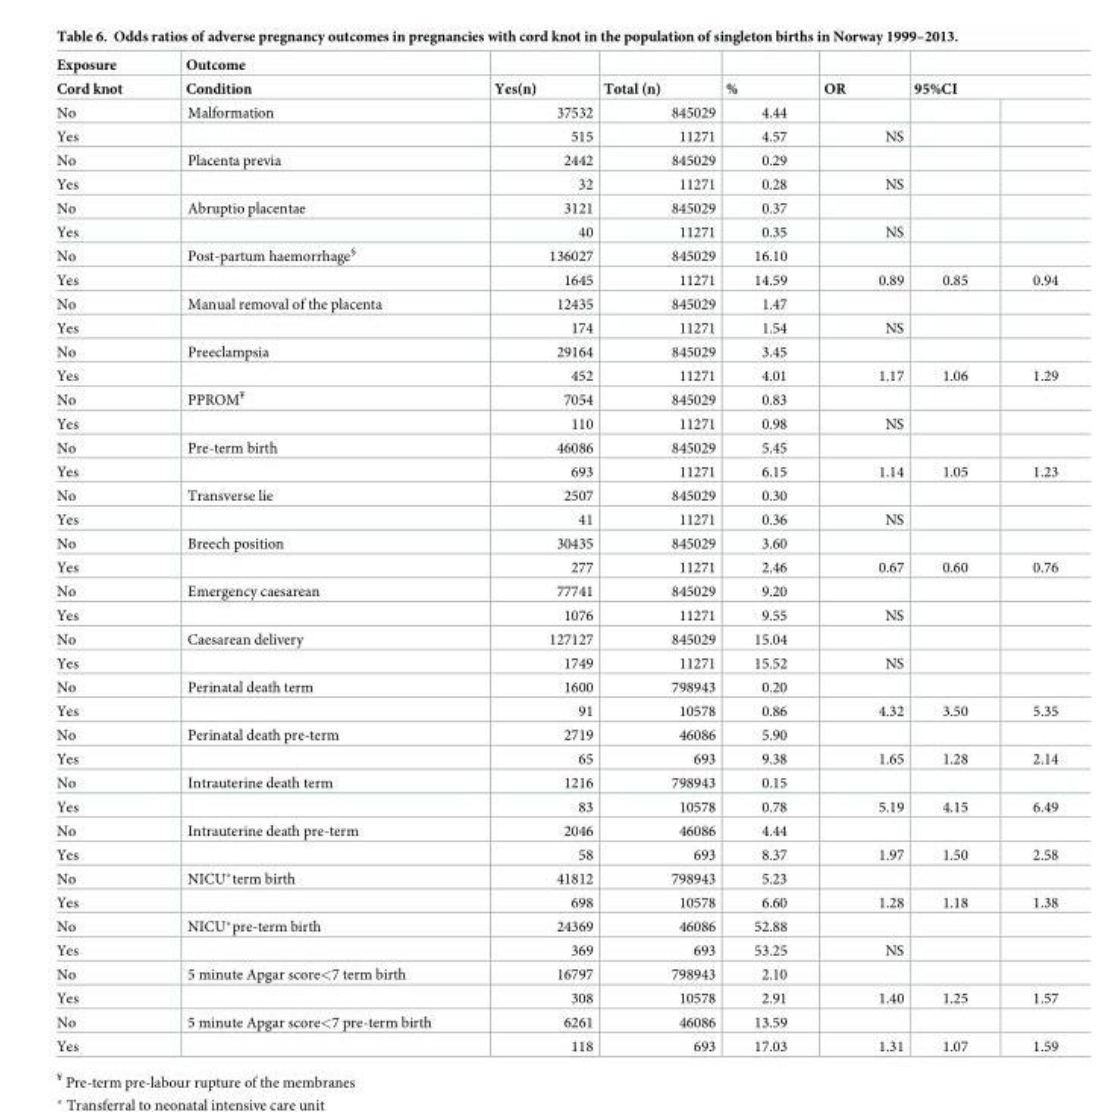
<table><thead><tr><td rowspan="2">Exposure Cord knot</td><td rowspan="2">Outcome Condition</td><td rowspan="2">Yes(n)</td><td rowspan="2">Total (n)</td><td rowspan="2">%</td><td rowspan="2">OR</td><td></td><td></td></tr><tr><td colspan="2">95%CI</td></tr></thead><tbody><tr><td>No</td><td>Malformation</td><td>37532</td><td>845029</td><td>4.44</td><td></td><td></td><td></td></tr><tr><td>Yes</td><td></td><td>515</td><td>11271</td><td>4.57</td><td>NS</td><td></td><td></td></tr><tr><td>No</td><td>Placenta previa</td><td>2442</td><td>845029</td><td>0.29</td><td></td><td></td><td></td></tr><tr><td>Yes</td><td></td><td>32</td><td>11271</td><td>0.28</td><td>NS</td><td></td><td></td></tr><tr><td>No</td><td>Abruptio placentae</td><td>3121</td><td>845029</td><td>0.37</td><td></td><td></td><td></td></tr><tr><td>Yes</td><td></td><td>40</td><td>11271</td><td>0.35</td><td>NS</td><td></td><td></td></tr><tr><td>No</td><td>Post-partum haemorrhage<sup>§</sup></td><td>136027</td><td>845029</td><td>16.10</td><td></td><td></td><td></td></tr><tr><td>Yes</td><td></td><td>1645</td><td>11271</td><td>14.59</td><td>0.89</td><td>0.85</td><td>0.94</td></tr><tr><td>No</td><td>Manual removal of the placenta</td><td>12435</td><td>845029</td><td>1.47</td><td></td><td></td><td></td></tr><tr><td>Yes</td><td></td><td>174</td><td>11271</td><td>1.54</td><td>NS</td><td></td><td></td></tr><tr><td>No</td><td>Preeclampsia</td><td>29164</td><td>845029</td><td>3.45</td><td></td><td></td><td></td></tr><tr><td>Yes</td><td></td><td>452</td><td>11271</td><td>4.01</td><td>1.17</td><td>1.06</td><td>1.29</td></tr><tr><td>No</td><td>PPROM<sup>¥</sup></td><td>7054</td><td>845029</td><td>0.83</td><td></td><td></td><td></td></tr><tr><td>Yes</td><td></td><td>110</td><td>11271</td><td>0.98</td><td>NS</td><td></td><td></td></tr><tr><td>No</td><td>Pre-term birth</td><td>46086</td><td>845029</td><td>5.45</td><td></td><td></td><td></td></tr><tr><td>Yes</td><td></td><td>693</td><td>11271</td><td>6.15</td><td>1.14</td><td>1.05</td><td>1.23</td></tr><tr><td>No</td><td>Transverse lie</td><td>2507</td><td>845029</td><td>0.30</td><td></td><td></td><td></td></tr><tr><td>Yes</td><td></td><td>41</td><td>11271</td><td>0.36</td><td>NS</td><td></td><td></td></tr><tr><td>No</td><td>Breech position</td><td>30435</td><td>845029</td><td>3.60</td><td></td><td></td><td></td></tr><tr><td>Yes</td><td></td><td>277</td><td>11271</td><td>2.46</td><td>0.67</td><td>0.60</td><td>0.76</td></tr><tr><td>No</td><td>Emergency caesarean</td><td>77741</td><td>845029</td><td>9.20</td><td></td><td></td><td></td></tr><tr><td>Yes</td><td></td><td>1076</td><td>11271</td><td>9.55</td><td>NS</td><td></td><td></td></tr><tr><td>No</td><td>Caesarean delivery</td><td>127127</td><td>845029</td><td>15.04</td><td></td><td></td><td></td></tr><tr><td>Yes</td><td></td><td>1749</td><td>11271</td><td>15.52</td><td>NS</td><td></td><td></td></tr><tr><td>No</td><td>Perinatal death term</td><td>1600</td><td>798943</td><td>0.20</td><td></td><td></td><td></td></tr><tr><td>Yes</td><td></td><td>91</td><td>10578</td><td>0.86</td><td>4.32</td><td>3.50</td><td>5.35</td></tr><tr><td>No</td><td>Perinatal death pre-term</td><td>2719</td><td>46086</td><td>5.90</td><td></td><td></td><td></td></tr><tr><td>Yes</td><td></td><td>65</td><td>693</td><td>9.38</td><td>1.65</td><td>1.28</td><td>2.14</td></tr><tr><td>No</td><td>Intrauterine death term</td><td>1216</td><td>798943</td><td>0.15</td><td></td><td></td><td></td></tr><tr><td>Yes</td><td></td><td>83</td><td>10578</td><td>0.78</td><td>5.19</td><td>4.15</td><td>6.49</td></tr><tr><td>No</td><td>Intrauterine death pre-term</td><td>2046</td><td>46086</td><td>4.44</td><td></td><td></td><td></td></tr><tr><td>Yes</td><td></td><td>58</td><td>693</td><td>8.37</td><td>1.97</td><td>1.50</td><td>2.58</td></tr><tr><td>No</td><td>NICU*term birth</td><td>41812</td><td>798943</td><td>5.23</td><td></td><td></td><td></td></tr><tr><td>Yes</td><td></td><td>698</td><td>10578</td><td>6.60</td><td>1.28</td><td>1.18</td><td>1.38</td></tr><tr><td>No</td><td>NICU*pre-term birth</td><td>24369</td><td>46086</td><td>52.88</td><td></td><td></td><td></td></tr><tr><td>Yes</td><td></td><td>369</td><td>693</td><td>53.25</td><td>NS</td><td></td><td></td></tr><tr><td>No</td><td>5 minute Apgar score&lt;7 term birth</td><td>16797</td><td>798943</td><td>2.10</td><td></td><td></td><td></td></tr><tr><td>Yes</td><td></td><td>308</td><td>10578</td><td>2.91</td><td>1.40</td><td>1.25</td><td>1.57</td></tr><tr><td>No</td><td>5 minute Apgar score&lt;7 pre-term birth</td><td>6261</td><td>46086</td><td>13.59</td><td></td><td></td><td></td></tr><tr><td>Yes</td><td></td><td>118</td><td>693</td><td>17.03</td><td>1.31</td><td>1.07</td><td>1.59</td></tr></tbody></table>